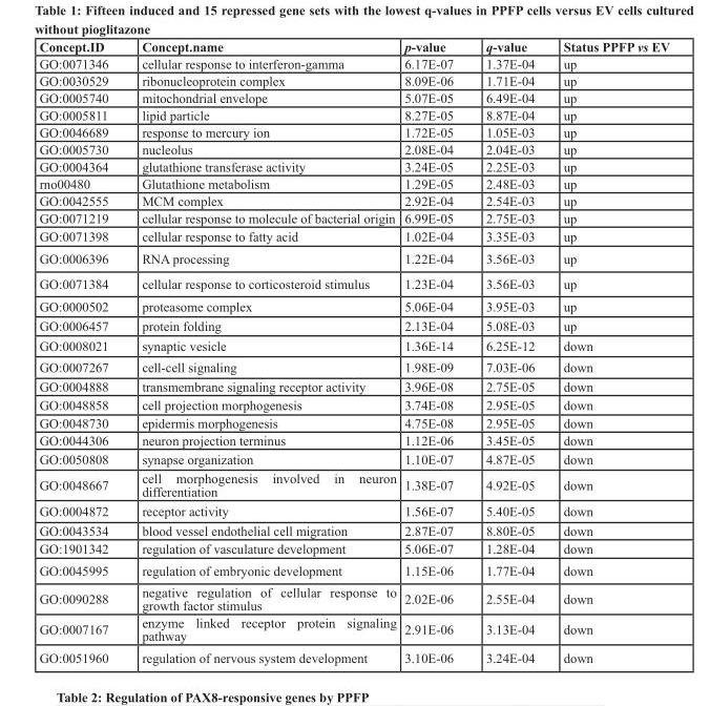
<table><thead><tr><td>Concept.ID</td><td>Concept.name</td><td>p-value</td><td>q-value</td><td>Status PPFP vs EV</td></tr></thead><tbody><tr><td>GO:0071346</td><td>cellular response to interferon-gamma</td><td>6.17E-07</td><td>1.37E-04</td><td>up</td></tr><tr><td>GO:0030529</td><td>ribonucleoprotein complex</td><td>8.09E-06</td><td>1.71E-04</td><td>up</td></tr><tr><td>GO:0005740</td><td>mitochondrial envelope</td><td>5.07E-05</td><td>6.49E-04</td><td>up</td></tr><tr><td>GO:0005811</td><td>lipid particle</td><td>8.27E-05</td><td>8.87E-04</td><td>up</td></tr><tr><td>GO:0046689</td><td>response to mercury ion</td><td>1.72E-05</td><td>1.05E-03</td><td>up</td></tr><tr><td>GO:0005730</td><td>nucleolus</td><td>2.08E-04</td><td>2.04E-03</td><td>up</td></tr><tr><td>GO:0004364</td><td>glutathione transferase activity</td><td>3.24E-05</td><td>2.25E-03</td><td>up</td></tr><tr><td>rno00480</td><td>Glutathione metabolism</td><td>1.29E-05</td><td>2.48E-03</td><td>up</td></tr><tr><td>GO:0042555</td><td>MCM complex</td><td>2.92E-04</td><td>2.54E-03</td><td>up</td></tr><tr><td>GO:0071219</td><td>cellular response to molecule of bacterial origin</td><td>6.99E-05</td><td>2.75E-03</td><td>up</td></tr><tr><td>GO:0071398</td><td>cellular response to fatty acid</td><td>1.02E-04</td><td>3.35E-03</td><td>up</td></tr><tr><td>GO:0006396</td><td>RNA processing</td><td>1.22E-04</td><td>3.56E-03</td><td>up</td></tr><tr><td>GO:0071384</td><td>cellular response to corticosteroid stimulus</td><td>1.23E-04</td><td>3.56E-03</td><td>up</td></tr><tr><td>GO:0000502</td><td>proteasome complex</td><td>5.06E-04</td><td>3.95E-03</td><td>up</td></tr><tr><td>GO:0006457</td><td>protein folding</td><td>2.13E-04</td><td>5.08E-03</td><td>up</td></tr><tr><td>GO:0008021</td><td>synaptic vesicle</td><td>1.36E-14</td><td>6.25E-12</td><td>down</td></tr><tr><td>GO:0007267</td><td>cell-cell signaling</td><td>1.98E-09</td><td>7.03E-06</td><td>down</td></tr><tr><td>GO:0004888</td><td>transmembrane signaling receptor activity</td><td>3.96E-08</td><td>2.75E-05</td><td>down</td></tr><tr><td>GO:0048858</td><td>cell projection morphogenesis</td><td>3.74E-08</td><td>2.95E-05</td><td>down</td></tr><tr><td>GO:0048730</td><td>epidermis morphogenesis</td><td>4.75E-08</td><td>2.95E-05</td><td>down</td></tr><tr><td>GO:0044306</td><td>neuron projection terminus</td><td>1.12E-06</td><td>3.45E-05</td><td>down</td></tr><tr><td>GO:0050808</td><td>synapse organization</td><td>1.10E-07</td><td>4.87E-05</td><td>down</td></tr><tr><td>GO:0048667</td><td>cell morphogenesis involved in neuron differentiation</td><td>1.38E-07</td><td>4.92E-05</td><td>down</td></tr><tr><td>GO:0004872</td><td>receptor activity</td><td>1.56E-07</td><td>5.40E-05</td><td>down</td></tr><tr><td>GO:0043534</td><td>blood vessel endothelial cell migration</td><td>2.87E-07</td><td>8.80E-05</td><td>down</td></tr><tr><td>GO:1901342</td><td>regulation of vasculature development</td><td>5.06E-07</td><td>1.28E-04</td><td>down</td></tr><tr><td>GO:0045995</td><td>regulation of embryonic development</td><td>1.15E-06</td><td>1.77E-04</td><td>down</td></tr><tr><td>GO:0090288</td><td>negative regulation of cellular response to growth factor stimulus</td><td>2.02E-06</td><td>2.55E-04</td><td>down</td></tr><tr><td>GO:0007167</td><td>enzyme linked receptor protein signaling pathway</td><td>2.91E-06</td><td>3.13E-04</td><td>down</td></tr><tr><td>GO:0051960</td><td>regulation of nervous system development</td><td>3.10E-06</td><td>3.24E-04</td><td>down</td></tr></tbody></table>